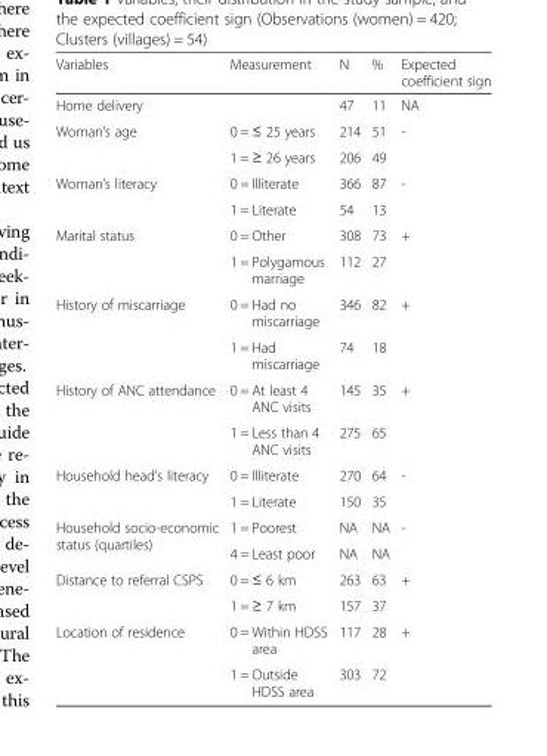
<table><thead><tr><td>Variables</td><td>Measurement</td><td>N</td><td>%</td><td>Expected coefficient sign</td></tr></thead><tbody><tr><td>Home delivery</td><td></td><td>47</td><td>11</td><td>NA</td></tr><tr><td rowspan="2">Woman’s age</td><td>0 = ≤ 25 years</td><td>214</td><td>51</td><td>-</td></tr><tr><td>1 = ≥ 26 years</td><td>206</td><td>49</td><td></td></tr><tr><td rowspan="2">Woman’s literacy</td><td>0 = Illiterate</td><td>366</td><td>87</td><td>-</td></tr><tr><td>1 = Literate</td><td>54</td><td>13</td><td></td></tr><tr><td rowspan="2">Marital status</td><td>0 = Other</td><td>308</td><td>73</td><td>+</td></tr><tr><td>1 = Polygamous marriage</td><td>112</td><td>27</td><td></td></tr><tr><td rowspan="2">History of miscarriage</td><td>0 = Had no miscarriage</td><td>346</td><td>82</td><td>+</td></tr><tr><td>1 = Had miscarriage</td><td>74</td><td>18</td><td></td></tr><tr><td rowspan="2">History of ANC attendance</td><td>0 = At least 4 ANC visits</td><td>145</td><td>35</td><td>+</td></tr><tr><td>1 = Less than 4 ANC visits</td><td>275</td><td>65</td><td></td></tr><tr><td rowspan="2">Household head’s literacy</td><td>0 = Illiterate</td><td>270</td><td>64</td><td>-</td></tr><tr><td>1 = Literate</td><td>150</td><td>35</td><td></td></tr><tr><td rowspan="2">Household socio-economic status (quartiles)</td><td>1 = Poorest</td><td>NA</td><td>NA</td><td>-</td></tr><tr><td>4 = Least poor</td><td>NA</td><td>NA</td><td></td></tr><tr><td rowspan="2">Distance to referral CSPS</td><td>0 = ≤ 6 km</td><td>263</td><td>63</td><td>+</td></tr><tr><td>1 = ≥ 7 km</td><td>157</td><td>37</td><td></td></tr><tr><td rowspan="2">Location of residence</td><td>0 = Within HDSS area</td><td>117</td><td>28</td><td>+</td></tr><tr><td>1 = Outside HDSS area</td><td>303</td><td>72</td><td></td></tr></tbody></table>